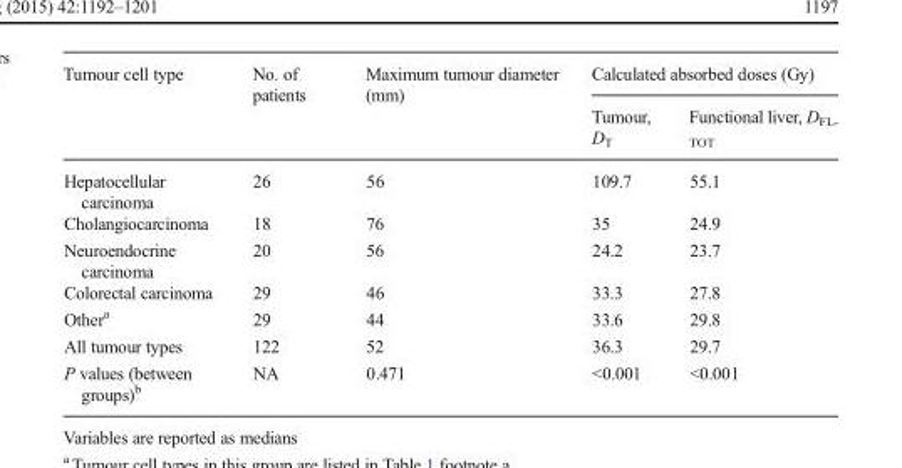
<table><thead><tr><td rowspan="2">Tumour cell type</td><td rowspan="2">No. of patients</td><td rowspan="2">Maximum tumour diameter (mm)</td><td colspan="2">Calculated absorbed doses (Gy)</td></tr><tr><td>Tumour, D<sub>T</sub></td><td>Functional liver, D<sub>FL- TOT</sub></td></tr></thead><tbody><tr><td>Hepatocellular carcinoma</td><td>26</td><td>56</td><td>109.7</td><td>55.1</td></tr><tr><td>Cholangiocarcinoma</td><td>18</td><td>76</td><td>35</td><td>24.9</td></tr><tr><td>Neuroendocrine carcinoma</td><td>20</td><td>56</td><td>24.2</td><td>23.7</td></tr><tr><td>Colorectal carcinoma</td><td>29</td><td>46</td><td>33.3</td><td>27.8</td></tr><tr><td>Other<sup>a</sup></td><td>29</td><td>44</td><td>33.6</td><td>29.8</td></tr><tr><td>All tumour types</td><td>122</td><td>52</td><td>36.3</td><td>29.7</td></tr><tr><td>P values (between groups)<sup>b</sup></td><td>NA</td><td>0.471</td><td>&lt;0.001</td><td>&lt;0.001</td></tr></tbody></table>